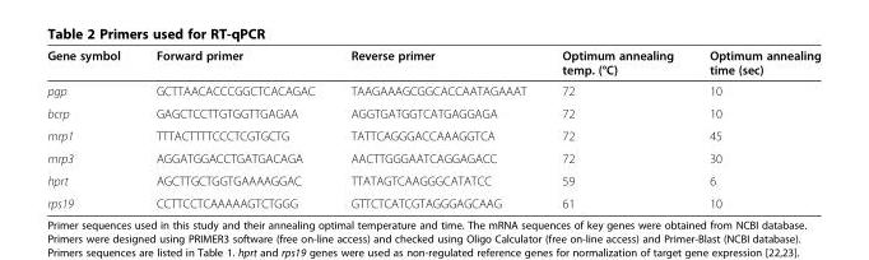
<table><thead><tr><td>Gene symbol</td><td>Forward primer</td><td>Reverse primer</td><td>Optimum annealing temp. (°C)</td><td>Optimum annealing time (sec)</td></tr></thead><tbody><tr><td>pgp</td><td>GCTTAACACCCGGCTCACAGAC</td><td>TAAGAAAGCGGCACCAATAGAAAT</td><td>72</td><td>10</td></tr><tr><td>bcrp</td><td>GAGCTCCTTGTGGTTGAGAA</td><td>AGGTGATGGTCATGAGGAGA</td><td>72</td><td>10</td></tr><tr><td>mrp1</td><td>TTTACTTTTCCCTCGTGCTG</td><td>TATTCAGGGACCAAAGGTCA</td><td>72</td><td>45</td></tr><tr><td>mrp3</td><td>AGGATGGACCTGATGACAGA</td><td>AACTTGGGAATCAGGAGACC</td><td>72</td><td>30</td></tr><tr><td>hprt</td><td>AGCTTGCTGGTGAAAAGGAC</td><td>TTATAGTCAAGGGCATATCC</td><td>59</td><td>6</td></tr><tr><td>rps19</td><td>CCTTCCTCAAAAAGTCTGGG</td><td>GTTCTCATCGTAGGGAGCAAG</td><td>61</td><td>10</td></tr></tbody></table>